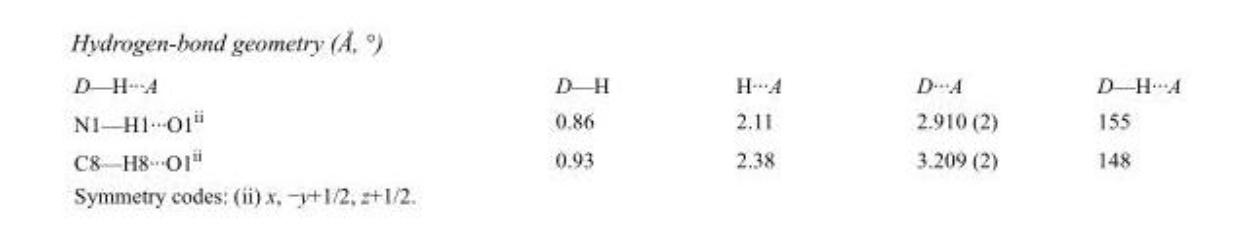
<table><tbody><tr><td>D—H···A</td><td>D—H</td><td>H···A</td><td>D···A</td><td>D—H···A</td></tr><tr><td>N1—H1···O1<sup>ii</sup></td><td>0.86</td><td>2.11</td><td>2.910 (2)</td><td>155</td></tr><tr><td>C8—H8···O1<sup>ii</sup></td><td>0.93</td><td>2.38</td><td>3.209 (2)</td><td>148</td></tr></tbody></table>